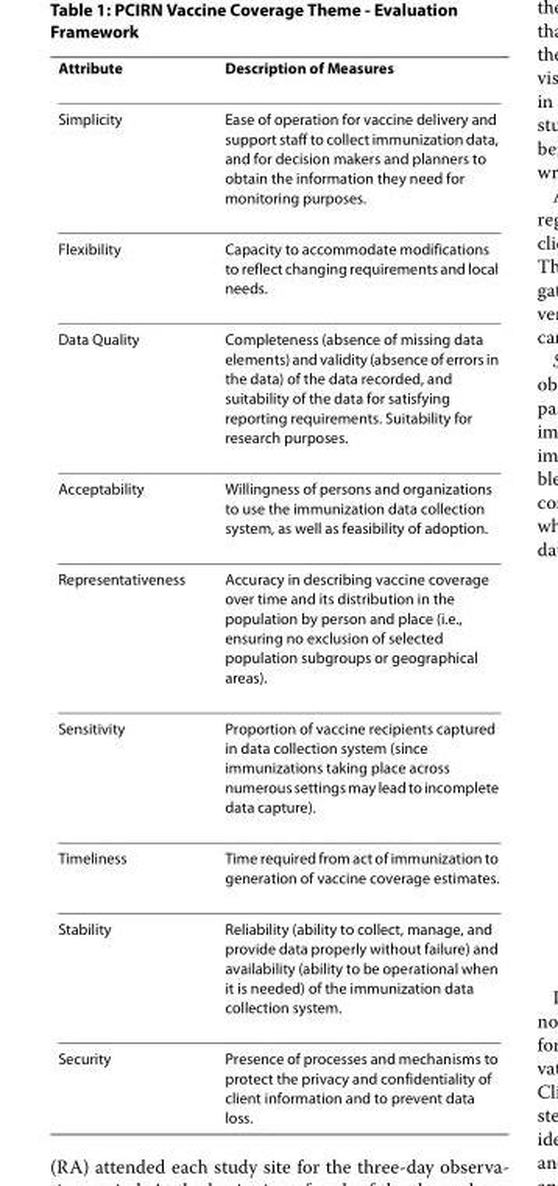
<table><thead><tr><td>Attribute</td><td>Description of Measures</td></tr></thead><tbody><tr><td>Simplicity</td><td>Ease of operation for vaccine delivery and support staff to collect immunization data, and for decision makers and planners to obtain the information they need for monitoring purposes.</td></tr><tr><td>Flexibility</td><td>Capacity to accommodate modifications to reflect changing requirements and local needs.</td></tr><tr><td>Data Quality</td><td>Completeness (absence of missing data elements) and validity (absence of errors in the data) of the data recorded, and suitability of the data for satisfying reporting requirements. Suitability for research purposes.</td></tr><tr><td>Acceptability</td><td>Willingness of persons and organizations to use the immunization data collection system, as well as feasibility of adoption.</td></tr><tr><td>Representativeness</td><td>Accuracy in describing vaccine coverage over time and its distribution in the population by person and place (i.e., ensuring no exclusion of selected population subgroups or geographical areas).</td></tr><tr><td>Sensitivity</td><td>Proportion of vaccine recipients captured in data collection system (since immunizations taking place across numerous settings may lead to incomplete data capture).</td></tr><tr><td>Timeliness</td><td>Time required from act of immunization to generation of vaccine coverage estimates.</td></tr><tr><td>Stability</td><td>Reliability (ability to collect, manage, and provide data properly without failure) and availability (ability to be operational when it is needed) of the immunization data collection system.</td></tr><tr><td>Security</td><td>Presence of processes and mechanisms to protect the privacy and confidentiality of client information and to prevent data loss.</td></tr></tbody></table>